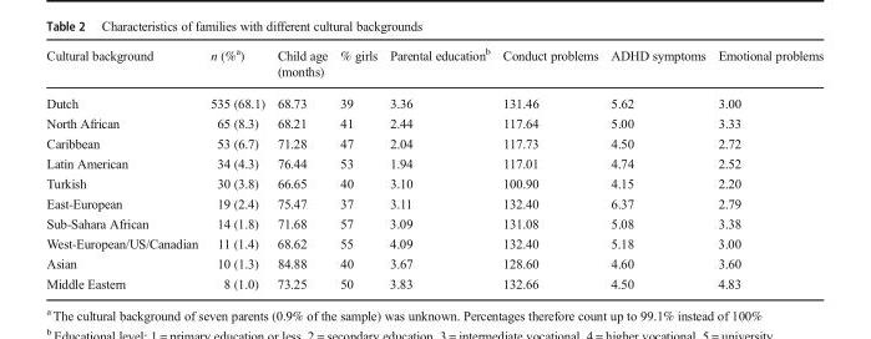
<table><thead><tr><td>Cultural background</td><td>n (%<sup>a</sup>)</td><td>Child age (months)</td><td>% girls</td><td>Parental education<sup>b</sup></td><td>Conduct problems</td><td>ADHD symptoms</td><td>Emotional problems</td></tr></thead><tbody><tr><td>Dutch</td><td>535 (68.1)</td><td>68.73</td><td>39</td><td>3.36</td><td>131.46</td><td>5.62</td><td>3.00</td></tr><tr><td>North African</td><td>65 (8.3)</td><td>68.21</td><td>41</td><td>2.44</td><td>117.64</td><td>5.00</td><td>3.33</td></tr><tr><td>Caribbean</td><td>53 (6.7)</td><td>71.28</td><td>47</td><td>2.04</td><td>117.73</td><td>4.50</td><td>2.72</td></tr><tr><td>Latin American</td><td>34 (4.3)</td><td>76.44</td><td>53</td><td>1.94</td><td>117.01</td><td>4.74</td><td>2.52</td></tr><tr><td>Turkish</td><td>30 (3.8)</td><td>66.65</td><td>40</td><td>3.10</td><td>100.90</td><td>4.15</td><td>2.20</td></tr><tr><td>East-European</td><td>19 (2.4)</td><td>75.47</td><td>37</td><td>3.11</td><td>132.40</td><td>6.37</td><td>2.79</td></tr><tr><td>Sub-Sahara African</td><td>14 (1.8)</td><td>71.68</td><td>57</td><td>3.09</td><td>131.08</td><td>5.08</td><td>3.38</td></tr><tr><td>West-European/US/Canadian</td><td>11 (1.4)</td><td>68.62</td><td>55</td><td>4.09</td><td>132.40</td><td>5.18</td><td>3.00</td></tr><tr><td>Asian</td><td>10 (1.3)</td><td>84.88</td><td>40</td><td>3.67</td><td>128.60</td><td>4.60</td><td>3.60</td></tr><tr><td>Middle Eastern</td><td>8 (1.0)</td><td>73.25</td><td>50</td><td>3.83</td><td>132.66</td><td>4.50</td><td>4.83</td></tr></tbody></table>